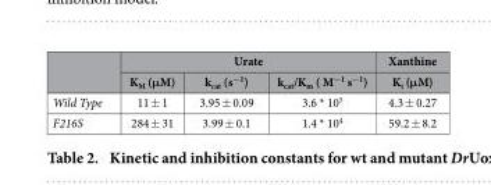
<table><thead><tr><td rowspan="2"></td><td colspan="3">Urate</td><td rowspan="2">Xanthine K<sub>i</sub> (μM)</td></tr><tr><td>K<sub>M</sub> (μM)</td><td>k<sub>cat</sub> (s<sup>−1</sup>)</td><td>k<sub>cat</sub>/K<sub>m</sub> ( M<sup>−1</sup> s<sup>−1</sup>)</td></tr></thead><tbody><tr><td>Wild Type</td><td>11 ± 1</td><td>3.95 ± 0.09</td><td>3.6 * 10<sup>5</sup></td><td>4.3 ± 0.27</td></tr><tr><td>F216S</td><td>284 ± 31</td><td>3.99 ± 0.1</td><td>1.4 * 10<sup>4</sup></td><td>59.2 ± 8.2</td></tr></tbody></table>